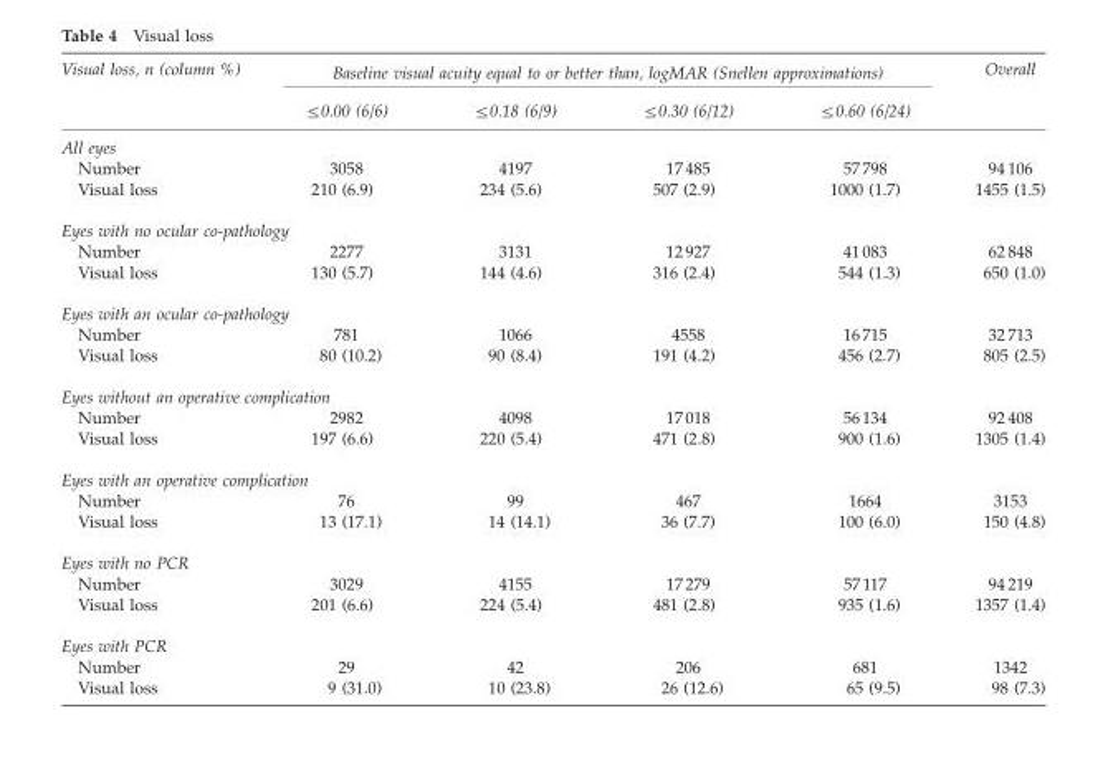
<table><thead><tr><td rowspan="2">Visual loss, n (column %)</td><td colspan="4">Baseline visual acuity equal to or better than, logMAR (Snellen approximations)</td><td rowspan="2">Overall</td></tr><tr><td>≤0.00 (6/6)</td><td>≤0.18 (6/9)</td><td>≤0.30 (6/12)</td><td>≤0.60 (6/24)</td></tr></thead><tbody><tr><td colspan="6">All eyes</td></tr><tr><td>Number</td><td>3058</td><td>4197</td><td>17 485</td><td>57 798</td><td>94 106</td></tr><tr><td>Visual loss</td><td>210 (6.9)</td><td>234 (5.6)</td><td>507 (2.9)</td><td>1000 (1.7)</td><td>1455 (1.5)</td></tr><tr><td colspan="6">Eyes with no ocular co-pathology</td></tr><tr><td>Number</td><td>2277</td><td>3131</td><td>12 927</td><td>41 083</td><td>62 848</td></tr><tr><td>Visual loss</td><td>130 (5.7)</td><td>144 (4.6)</td><td>316 (2.4)</td><td>544 (1.3)</td><td>650 (1.0)</td></tr><tr><td colspan="6">Eyes with an ocular co-pathology</td></tr><tr><td>Number</td><td>781</td><td>1066</td><td>4558</td><td>16 715</td><td>32 713</td></tr><tr><td>Visual loss</td><td>80 (10.2)</td><td>90 (8.4)</td><td>191 (4.2)</td><td>456 (2.7)</td><td>805 (2.5)</td></tr><tr><td colspan="6">Eyes without an operative complication</td></tr><tr><td>Number</td><td>2982</td><td>4098</td><td>17 018</td><td>56 134</td><td>92 408</td></tr><tr><td>Visual loss</td><td>197 (6.6)</td><td>220 (5.4)</td><td>471 (2.8)</td><td>900 (1.6)</td><td>1305 (1.4)</td></tr><tr><td colspan="6">Eyes with an operative complication</td></tr><tr><td>Number</td><td>76</td><td>99</td><td>467</td><td>1664</td><td>3153</td></tr><tr><td>Visual loss</td><td>13 (17.1)</td><td>14 (14.1)</td><td>36 (7.7)</td><td>100 (6.0)</td><td>150 (4.8)</td></tr><tr><td colspan="6">Eyes with no PCR</td></tr><tr><td>Number</td><td>3029</td><td>4155</td><td>17 279</td><td>57 117</td><td>94 219</td></tr><tr><td>Visual loss</td><td>201 (6.6)</td><td>224 (5.4)</td><td>481 (2.8)</td><td>935 (1.6)</td><td>1357 (1.4)</td></tr><tr><td colspan="6">Eyes with PCR</td></tr><tr><td>Number</td><td>29</td><td>42</td><td>206</td><td>681</td><td>1342</td></tr><tr><td>Visual loss</td><td>9 (31.0)</td><td>10 (23.8)</td><td>26 (12.6)</td><td>65 (9.5)</td><td>98 (7.3)</td></tr></tbody></table>